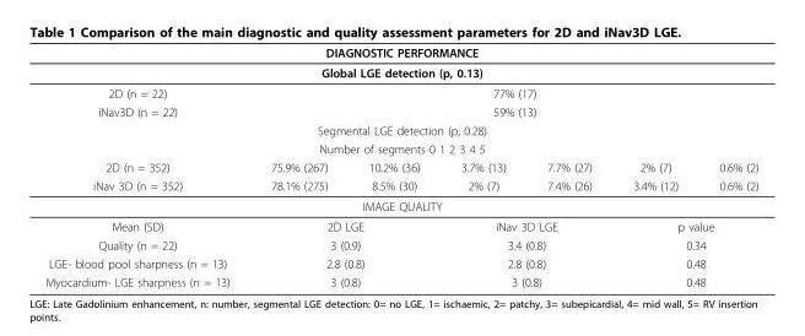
<table><thead><tr><td rowspan="2" colspan="7">DIAGNOSTIC PERFORMANCE Global LGE detection (p, 0.13)</td></tr><tr></tr></thead><tbody><tr><td>2D (n = 22)</td><td colspan="6">77% (17)</td></tr><tr><td>iNav3D (n = 22)</td><td colspan="6">59% (13)</td></tr><tr><td colspan="7">Segmental LGE detection (p, 0.28)</td></tr><tr><td colspan="7">Number of segments 0 1 2 3 4 5</td></tr><tr><td>2D (n = 352)</td><td>75.9% (267)</td><td>10.2% (36)</td><td>3.7% (13)</td><td>7.7% (27)</td><td>2% (7)</td><td>0.6% (2)</td></tr><tr><td>iNav 3D (n = 352)</td><td>78.1% (275)</td><td>8.5% (30)</td><td>2% (7)</td><td>7.4% (26)</td><td>3.4% (12)</td><td>0.6% (2)</td></tr><tr><td colspan="7">IMAGE QUALITY</td></tr><tr><td>Mean (SD)</td><td colspan="2">2D LGE</td><td colspan="2">iNav 3D LGE</td><td colspan="2">p value</td></tr><tr><td>Quality (n = 22)</td><td colspan="2">3 (0.9)</td><td colspan="2">3.4 (0.8)</td><td colspan="2">0.34</td></tr><tr><td>LGE- blood pool sharpness (n = 13)</td><td colspan="2">2.8 (0.8)</td><td colspan="2">2.8 (0.8)</td><td colspan="2">0.48</td></tr><tr><td>Myocardium- LGE sharpness (n = 13)</td><td colspan="2">3 (0.8)</td><td colspan="2">3 (0.8)</td><td colspan="2">0.48</td></tr></tbody></table>